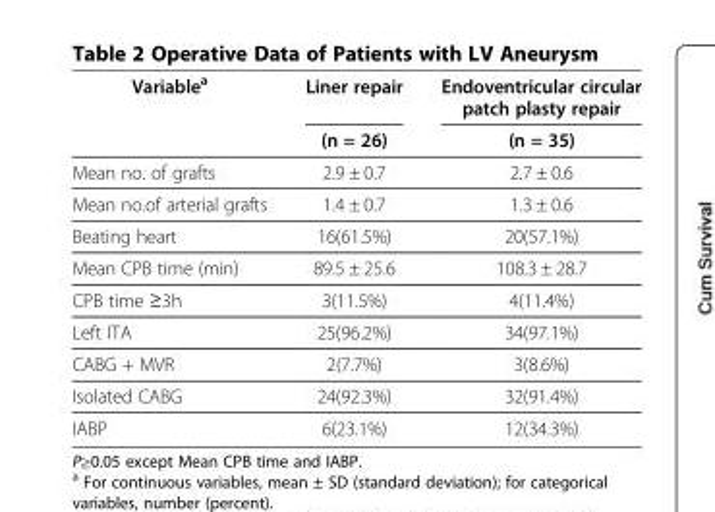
<table><thead><tr><td rowspan="2">Variable<sup>a</sup></td><td rowspan="2">Liner repair (n = 26)</td><td rowspan="2">Endoventricular circular patch plasty repair (n = 35)</td></tr><tr></tr></thead><tbody><tr><td>Mean no. of grafts</td><td>2.9 ± 0.7</td><td>2.7 ± 0.6</td></tr><tr><td>Mean no.of arterial grafts</td><td>1.4 ± 0.7</td><td>1.3 ± 0.6</td></tr><tr><td>Beating heart</td><td>16(61.5%)</td><td>20(57.1%)</td></tr><tr><td>Mean CPB time (min)</td><td>89.5 ± 25.6</td><td>108.3 ± 28.7</td></tr><tr><td>CPB time ≥3h</td><td>3(11.5%)</td><td>4(11.4%)</td></tr><tr><td>Left ITA</td><td>25(96.2%)</td><td>34(97.1%)</td></tr><tr><td>CABG + MVR</td><td>2(7.7%)</td><td>3(8.6%)</td></tr><tr><td>Isolated CABG</td><td>24(92.3%)</td><td>32(91.4%)</td></tr><tr><td>IABP</td><td>6(23.1%)</td><td>12(34.3%)</td></tr></tbody></table>